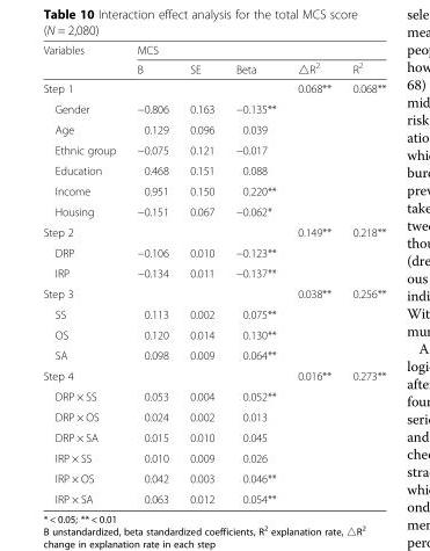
<table><thead><tr><td rowspan="2">Variables</td><td colspan="5">MCS</td></tr><tr><td>B</td><td>SE</td><td>Beta</td><td>△R<sup>2</sup></td><td>R<sup>2</sup></td></tr></thead><tbody><tr><td>Step 1</td><td></td><td></td><td></td><td>0.068**</td><td>0.068**</td></tr><tr><td>Gender</td><td>−0.806</td><td>0.163</td><td>−0.135**</td><td></td><td></td></tr><tr><td>Age</td><td>0.129</td><td>0.096</td><td>0.039</td><td></td><td></td></tr><tr><td>Ethnic group</td><td>−0.075</td><td>0.121</td><td>−0.017</td><td></td><td></td></tr><tr><td>Education</td><td>0.468</td><td>0.151</td><td>0.088</td><td></td><td></td></tr><tr><td>Income</td><td>0.951</td><td>0.150</td><td>0.220**</td><td></td><td></td></tr><tr><td>Housing</td><td>−0.151</td><td>0.067</td><td>−0.062*</td><td></td><td></td></tr><tr><td>Step 2</td><td></td><td></td><td></td><td>0.149**</td><td>0.218**</td></tr><tr><td>DRP</td><td>−0.106</td><td>0.010</td><td>−0.123**</td><td></td><td></td></tr><tr><td>IRP</td><td>−0.134</td><td>0.011</td><td>−0.137**</td><td></td><td></td></tr><tr><td>Step 3</td><td></td><td></td><td></td><td>0.038**</td><td>0.256**</td></tr><tr><td>SS</td><td>0.113</td><td>0.002</td><td>0.075**</td><td></td><td></td></tr><tr><td>OS</td><td>0.120</td><td>0.014</td><td>0.130**</td><td></td><td></td></tr><tr><td>SA</td><td>0.098</td><td>0.009</td><td>0.064**</td><td></td><td></td></tr><tr><td>Step 4</td><td></td><td></td><td></td><td>0.016**</td><td>0.273**</td></tr><tr><td>DRP × SS</td><td>0.053</td><td>0.004</td><td>0.052**</td><td></td><td></td></tr><tr><td>DRP × OS</td><td>0.024</td><td>0.002</td><td>0.013</td><td></td><td></td></tr><tr><td>DRP × SA</td><td>0.015</td><td>0.010</td><td>0.045</td><td></td><td></td></tr><tr><td>IRP × SS</td><td>0.010</td><td>0.009</td><td>0.026</td><td></td><td></td></tr><tr><td>IRP × OS</td><td>0.042</td><td>0.003</td><td>0.046**</td><td></td><td></td></tr><tr><td>IRP × SA</td><td>0.063</td><td>0.012</td><td>0.054**</td><td></td><td></td></tr></tbody></table>